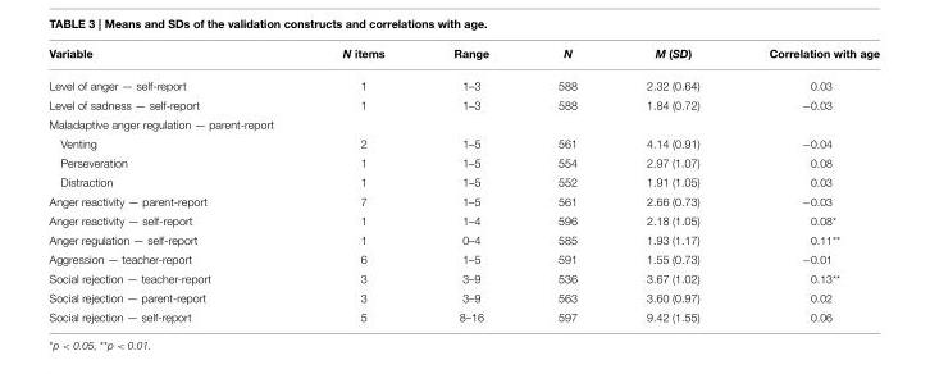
<table><thead><tr><td>Variable</td><td>N items</td><td>Range</td><td>N</td><td>M (SD)</td><td>Correlation with age</td></tr></thead><tbody><tr><td>Level of anger — self-report</td><td>1</td><td>1–3</td><td>588</td><td>2.32 (0.64)</td><td>0.03</td></tr><tr><td>Level of sadness — self-report</td><td>1</td><td>1–3</td><td>588</td><td>1.84 (0.72)</td><td>−0.03</td></tr><tr><td colspan="6">Maladaptive anger regulation — parent-report</td></tr><tr><td>Venting</td><td>2</td><td>1–5</td><td>561</td><td>4.14 (0.91)</td><td>−0.04</td></tr><tr><td>Perseveration</td><td>1</td><td>1–5</td><td>554</td><td>2.97 (1.07)</td><td>0.08</td></tr><tr><td>Distraction</td><td>1</td><td>1–5</td><td>552</td><td>1.91 (1.05)</td><td>0.03</td></tr><tr><td>Anger reactivity — parent-report</td><td>7</td><td>1–5</td><td>561</td><td>2.66 (0.73)</td><td>−0.03</td></tr><tr><td>Anger reactivity — self-report</td><td>1</td><td>1–4</td><td>596</td><td>2.18 (1.05)</td><td>0.08*</td></tr><tr><td>Anger regulation — self-report</td><td>1</td><td>0–4</td><td>585</td><td>1.93 (1.17)</td><td>0.11**</td></tr><tr><td>Aggression — teacher-report</td><td>6</td><td>1–5</td><td>591</td><td>1.55 (0.73)</td><td>−0.01</td></tr><tr><td>Social rejection — teacher-report</td><td>3</td><td>3–9</td><td>536</td><td>3.67 (1.02)</td><td>0.13**</td></tr><tr><td>Social rejection — parent-report</td><td>3</td><td>3–9</td><td>563</td><td>3.60 (0.97)</td><td>0.02</td></tr><tr><td>Social rejection — self-report</td><td>5</td><td>8–16</td><td>597</td><td>9.42 (1.55)</td><td>0.06</td></tr></tbody></table>